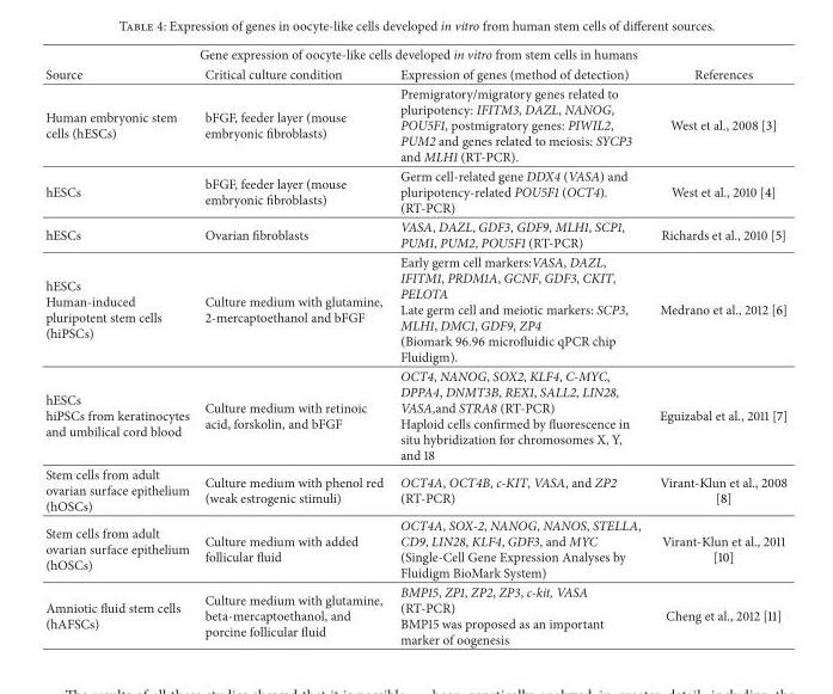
<table><thead><tr><td colspan="4">Gene expression of oocyte-like cells developed in vitro from stem cells in humans</td></tr><tr><td>Source</td><td>Critical culture condition</td><td>Expression of genes (method of detection)</td><td>References</td></tr></thead><tbody><tr><td>Human embryonic stem cells (hESCs)</td><td>bFGF, feeder layer (mouse embryonic fibroblasts)</td><td>Premigratory/migratory genes related to pluripotency: IFITM3, DAZL, NANOG, POU5F1, postmigratory genes: PIWIL2, PUM2 and genes related to meiosis: SYCP3 and MLH1 (RT-PCR).</td><td>West et al., 2008 [3]</td></tr><tr><td>hESCs</td><td>bFGF, feeder layer (mouse embryonic fibroblasts)</td><td>Germ cell-related gene DDX4 (VASA) and pluripotency-related POU5F1 (OCT4). (RT-PCR)</td><td>West et al., 2010 [4]</td></tr><tr><td>hESCs</td><td>Ovarian fibroblasts</td><td>VASA, DAZL, GDF3, GDF9, MLH1, SCP1, PUM1, PUM2, POU5F1 (RT-PCR)</td><td>Richards et al., 2010 [5]</td></tr><tr><td>hESCs Human-induced pluripotent stem cells (hiPSCs)</td><td>Culture medium with glutamine, 2-mercaptoethanol and bFGF</td><td>Early germ cell markers:VASA, DAZL, IFITM1, PRDM1A, GCNF, GDF3, CKIT, PELOTA Late germ cell and meiotic markers: SCP3, MLH1, DMC1, GDF9, ZP4 (Biomark 96.96 microfluidic qPCR chip Fluidigm).</td><td>Medrano et al., 2012 [6]</td></tr><tr><td>hESCs hiPSCs from keratinocytes and umbilical cord blood</td><td>Culture medium with retinoic acid, forskolin, and bFGF</td><td>OCT4, NANOG, SOX2, KLF4, C-MYC, DPPA4, DNMT3B, REX1, SALL2, LIN28, VASA,and STRA8 (RT-PCR) Haploid cells confirmed by fluorescence in situ hybridization for chromosomes X, Y, and 18</td><td>Eguizabal et al., 2011 [7]</td></tr><tr><td>Stem cells from adult ovarian surface epithelium (hOSCs)</td><td>Culture medium with phenol red (weak estrogenic stimuli)</td><td>OCT4A, OCT4B, c-KIT, VASA, and ZP2 (RT-PCR)</td><td>Virant-Klun et al., 2008 [8]</td></tr><tr><td>Stem cells from adult ovarian surface epithelium (hOSCs)</td><td>Culture medium with added follicular fluid</td><td>OCT4A, SOX-2, NANOG, NANOS, STELLA, CD9, LIN28, KLF4, GDF3, and MYC (Single-Cell Gene Expression Analyses by Fluidigm BioMark System)</td><td>Virant-Klun et al., 2011 [10]</td></tr><tr><td>Amniotic fluid stem cells (hAFSCs)</td><td>Culture medium with glutamine, beta-mercaptoethanol, and porcine follicular fluid</td><td>BMP15, ZP1, ZP2, ZP3, c-kit, VASA (RT-PCR) BMP15 was proposed as an important marker of oogenesis</td><td>Cheng et al., 2012 [11]</td></tr></tbody></table>